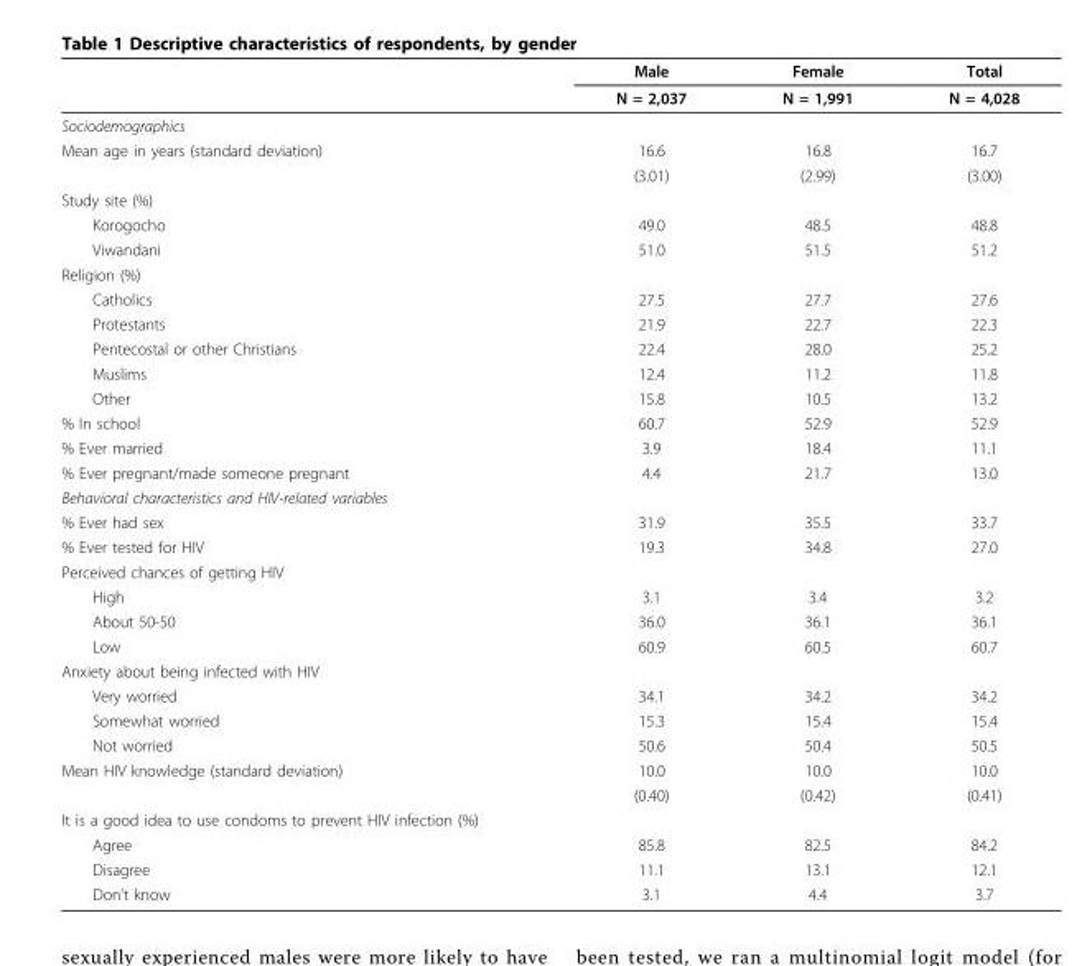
<table><thead><tr><td rowspan="2"></td><td rowspan="2">Male N = 2,037</td><td rowspan="2">Female N = 1,991</td><td rowspan="2">Total N = 4,028</td></tr><tr></tr></thead><tbody><tr><td colspan="4">Sociodemographics</td></tr><tr><td rowspan="2">Mean age in years (standard deviation)</td><td>16.6</td><td>16.8</td><td>16.7</td></tr><tr><td>(3.01)</td><td>(2.99)</td><td>(3.00)</td></tr><tr><td colspan="4">Study site (%)</td></tr><tr><td>Korogocho</td><td>49.0</td><td>48.5</td><td>48.8</td></tr><tr><td>Viwandani</td><td>51.0</td><td>51.5</td><td>51.2</td></tr><tr><td colspan="4">Religion (%)</td></tr><tr><td>Catholics</td><td>27.5</td><td>27.7</td><td>27.6</td></tr><tr><td>Protestants</td><td>21.9</td><td>22.7</td><td>22.3</td></tr><tr><td>Pentecostal or other Christians</td><td>22.4</td><td>28.0</td><td>25.2</td></tr><tr><td>Muslims</td><td>12.4</td><td>11.2</td><td>11.8</td></tr><tr><td>Other</td><td>15.8</td><td>10.5</td><td>13.2</td></tr><tr><td>% In school</td><td>60.7</td><td>52.9</td><td>52.9</td></tr><tr><td>% Ever married</td><td>3.9</td><td>18.4</td><td>11.1</td></tr><tr><td>% Ever pregnant/made someone pregnant</td><td>4.4</td><td>21.7</td><td>13.0</td></tr><tr><td colspan="4">Behavioral characteristics and HIV-related variables</td></tr><tr><td>% Ever had sex</td><td>31.9</td><td>35.5</td><td>33.7</td></tr><tr><td>% Ever tested for HIV</td><td>19.3</td><td>34.8</td><td>27.0</td></tr><tr><td colspan="4">Perceived chances of getting HIV</td></tr><tr><td>High</td><td>3.1</td><td>3.4</td><td>3.2</td></tr><tr><td>About 50-50</td><td>36.0</td><td>36.1</td><td>36.1</td></tr><tr><td>Low</td><td>60.9</td><td>60.5</td><td>60.7</td></tr><tr><td colspan="4">Anxiety about being infected with HIV</td></tr><tr><td>Very worried</td><td>34.1</td><td>34.2</td><td>34.2</td></tr><tr><td>Somewhat worried</td><td>15.3</td><td>15.4</td><td>15.4</td></tr><tr><td>Not worried</td><td>50.6</td><td>50.4</td><td>50.5</td></tr><tr><td rowspan="2">Mean HIV knowledge (standard deviation)</td><td>10.0</td><td>10.0</td><td>10.0</td></tr><tr><td>(0.40)</td><td>(0.42)</td><td>(0.41)</td></tr><tr><td colspan="4">It is a good idea to use condoms to prevent HIV infection (%)</td></tr><tr><td>Agree</td><td>85.8</td><td>82.5</td><td>84.2</td></tr><tr><td>Disagree</td><td>11.1</td><td>13.1</td><td>12.1</td></tr><tr><td>Don’t know</td><td>3.1</td><td>4.4</td><td>3.7</td></tr></tbody></table>